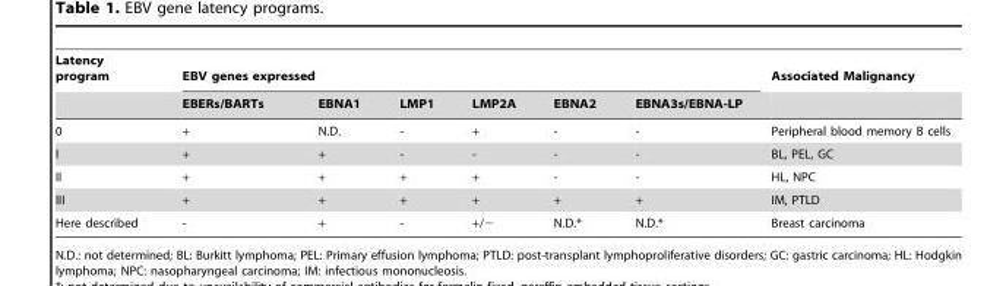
<table><thead><tr><td rowspan="2">Latency program</td><td colspan="6">EBV genes expressed</td><td rowspan="2">Associated Malignancy</td></tr><tr><td>EBERs/BARTs</td><td>EBNA1</td><td>LMP1</td><td>LMP2A</td><td>EBNA2</td><td>EBNA3s/EBNA-LP</td></tr></thead><tbody><tr><td>0</td><td>+</td><td>N.D.</td><td>-</td><td>+</td><td>-</td><td>-</td><td>Peripheral blood memory B cells</td></tr><tr><td>I</td><td>+</td><td>+</td><td>-</td><td>-</td><td>-</td><td>-</td><td>BL, PEL, GC</td></tr><tr><td>II</td><td>+</td><td>+</td><td>+</td><td>+</td><td>-</td><td>-</td><td>HL, NPC</td></tr><tr><td>III</td><td>+</td><td>+</td><td>+</td><td>+</td><td>+</td><td>+</td><td>IM, PTLD</td></tr><tr><td>Here described</td><td>-</td><td>+</td><td>-</td><td>+/−</td><td>N.D.*</td><td>N.D.*</td><td>Breast carcinoma</td></tr></tbody></table>